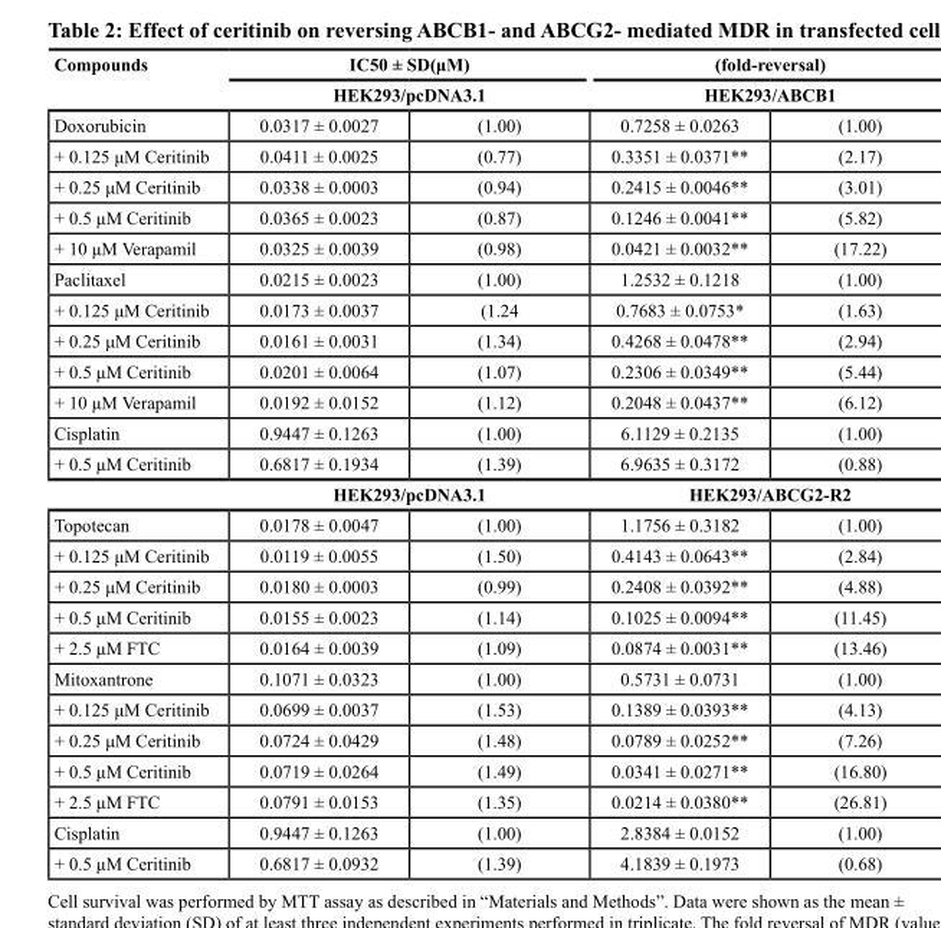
<table><thead><tr><td rowspan="3">Compounds Doxorubicin</td><td rowspan="2" colspan="2">IC50 ± SD(μM) HEK293/pcDNA3.1</td><td rowspan="2" colspan="2">(fold-reversal) HEK293/ABCB1</td></tr><tr></tr><tr><td>0.0317 ± 0.0027</td><td>(1.00)</td><td>0.7258 ± 0.0263</td><td>(1.00)</td></tr></thead><tbody><tr><td>+ 0.125 μM Ceritinib</td><td>0.0411 ± 0.0025</td><td>(0.77)</td><td>0.3351 ± 0.0371**</td><td>(2.17)</td></tr><tr><td>+ 0.25 μM Ceritinib</td><td>0.0338 ± 0.0003</td><td>(0.94)</td><td>0.2415 ± 0.0046**</td><td>(3.01)</td></tr><tr><td>+ 0.5 μM Ceritinib</td><td>0.0365 ± 0.0023</td><td>(0.87)</td><td>0.1246 ± 0.0041**</td><td>(5.82)</td></tr><tr><td>+ 10 μM Verapamil</td><td>0.0325 ± 0.0039</td><td>(0.98)</td><td>0.0421 ± 0.0032**</td><td>(17.22)</td></tr><tr><td>Paclitaxel</td><td>0.0215 ± 0.0023</td><td>(1.00)</td><td>1.2532 ± 0.1218</td><td>(1.00)</td></tr><tr><td>+ 0.125 μM Ceritinib</td><td>0.0173 ± 0.0037</td><td>(1.24</td><td>0.7683 ± 0.0753*</td><td>(1.63)</td></tr><tr><td>+ 0.25 μM Ceritinib</td><td>0.0161 ± 0.0031</td><td>(1.34)</td><td>0.4268 ± 0.0478**</td><td>(2.94)</td></tr><tr><td>+ 0.5 μM Ceritinib</td><td>0.0201 ± 0.0064</td><td>(1.07)</td><td>0.2306 ± 0.0349**</td><td>(5.44)</td></tr><tr><td>+ 10 μM Verapamil</td><td>0.0192 ± 0.0152</td><td>(1.12)</td><td>0.2048 ± 0.0437**</td><td>(6.12)</td></tr><tr><td>Cisplatin</td><td>0.9447 ± 0.1263</td><td>(1.00)</td><td>6.1129 ± 0.2135</td><td>(1.00)</td></tr><tr><td rowspan="2">+ 0.5 μM Ceritinib</td><td>0.6817 ± 0.1934</td><td>(1.39)</td><td>6.9635 ± 0.3172</td><td>(0.88)</td></tr><tr><td colspan="2">HEK293/pcDNA3.1</td><td colspan="2">HEK293/ABCG2-R2</td></tr><tr><td>Topotecan</td><td>0.0178 ± 0.0047</td><td>(1.00)</td><td>1.1756 ± 0.3182</td><td>(1.00)</td></tr><tr><td>+ 0.125 μM Ceritinib</td><td>0.0119 ± 0.0055</td><td>(1.50)</td><td>0.4143 ± 0.0643**</td><td>(2.84)</td></tr><tr><td>+ 0.25 μM Ceritinib</td><td>0.0180 ± 0.0003</td><td>(0.99)</td><td>0.2408 ± 0.0392**</td><td>(4.88)</td></tr><tr><td>+ 0.5 μM Ceritinib</td><td>0.0155 ± 0.0023</td><td>(1.14)</td><td>0.1025 ± 0.0094**</td><td>(11.45)</td></tr><tr><td>+ 2.5 μM FTC</td><td>0.0164 ± 0.0039</td><td>(1.09)</td><td>0.0874 ± 0.0031**</td><td>(13.46)</td></tr><tr><td>Mitoxantrone</td><td>0.1071 ± 0.0323</td><td>(1.00)</td><td>0.5731 ± 0.0731</td><td>(1.00)</td></tr><tr><td>+ 0.125 μM Ceritinib</td><td>0.0699 ± 0.0037</td><td>(1.53)</td><td>0.1389 ± 0.0393**</td><td>(4.13)</td></tr><tr><td>+ 0.25 μM Ceritinib</td><td>0.0724 ± 0.0429</td><td>(1.48)</td><td>0.0789 ± 0.0252**</td><td>(7.26)</td></tr><tr><td>+ 0.5 μM Ceritinib</td><td>0.0719 ± 0.0264</td><td>(1.49)</td><td>0.0341 ± 0.0271**</td><td>(16.80)</td></tr><tr><td>+ 2.5 μM FTC</td><td>0.0791 ± 0.0153</td><td>(1.35)</td><td>0.0214 ± 0.0380**</td><td>(26.81)</td></tr><tr><td>Cisplatin</td><td>0.9447 ± 0.1263</td><td>(1.00)</td><td>2.8384 ± 0.0152</td><td>(1.00)</td></tr><tr><td>+ 0.5 μM Ceritinib</td><td>0.6817 ± 0.0932</td><td>(1.39)</td><td>4.1839 ± 0.1973</td><td>(0.68)</td></tr></tbody></table>